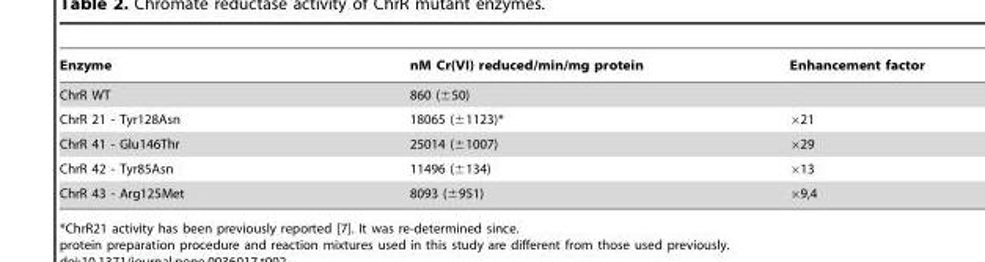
<table><thead><tr><td>Enzyme</td><td>nM Cr(VI) reduced/min/mg protein</td><td>Enhancement factor</td></tr></thead><tbody><tr><td>ChrR WT</td><td>860 (±50)</td><td></td></tr><tr><td>ChrR 21 - Tyr128Asn</td><td>18065 (±1123)*</td><td>×21</td></tr><tr><td>ChrR 41 - Glu146Thr</td><td>25014 (±1007)</td><td>×29</td></tr><tr><td>ChrR 42 - Tyr85Asn</td><td>11496 (±134)</td><td>×13</td></tr><tr><td>ChrR 43 - Arg125Met</td><td>8093 (±951)</td><td>×9,4</td></tr></tbody></table>